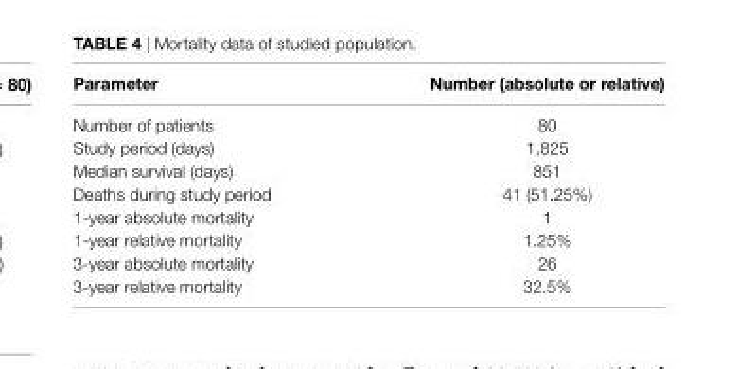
<table><thead><tr><td>Parameter</td><td>number (absolute or relative)</td></tr></thead><tbody><tr><td>Number of patients</td><td>80</td></tr><tr><td>Study period (days)</td><td>1,825</td></tr><tr><td>Median survival (days)</td><td>851</td></tr><tr><td>Deaths during study period</td><td>41 (51.25%)</td></tr><tr><td>1-year absolute mortality</td><td>1</td></tr><tr><td>1-year relative mortality</td><td>1.25%</td></tr><tr><td>3-year absolute mortality</td><td>26</td></tr><tr><td>3-year relative mortality</td><td>32.5%</td></tr></tbody></table>